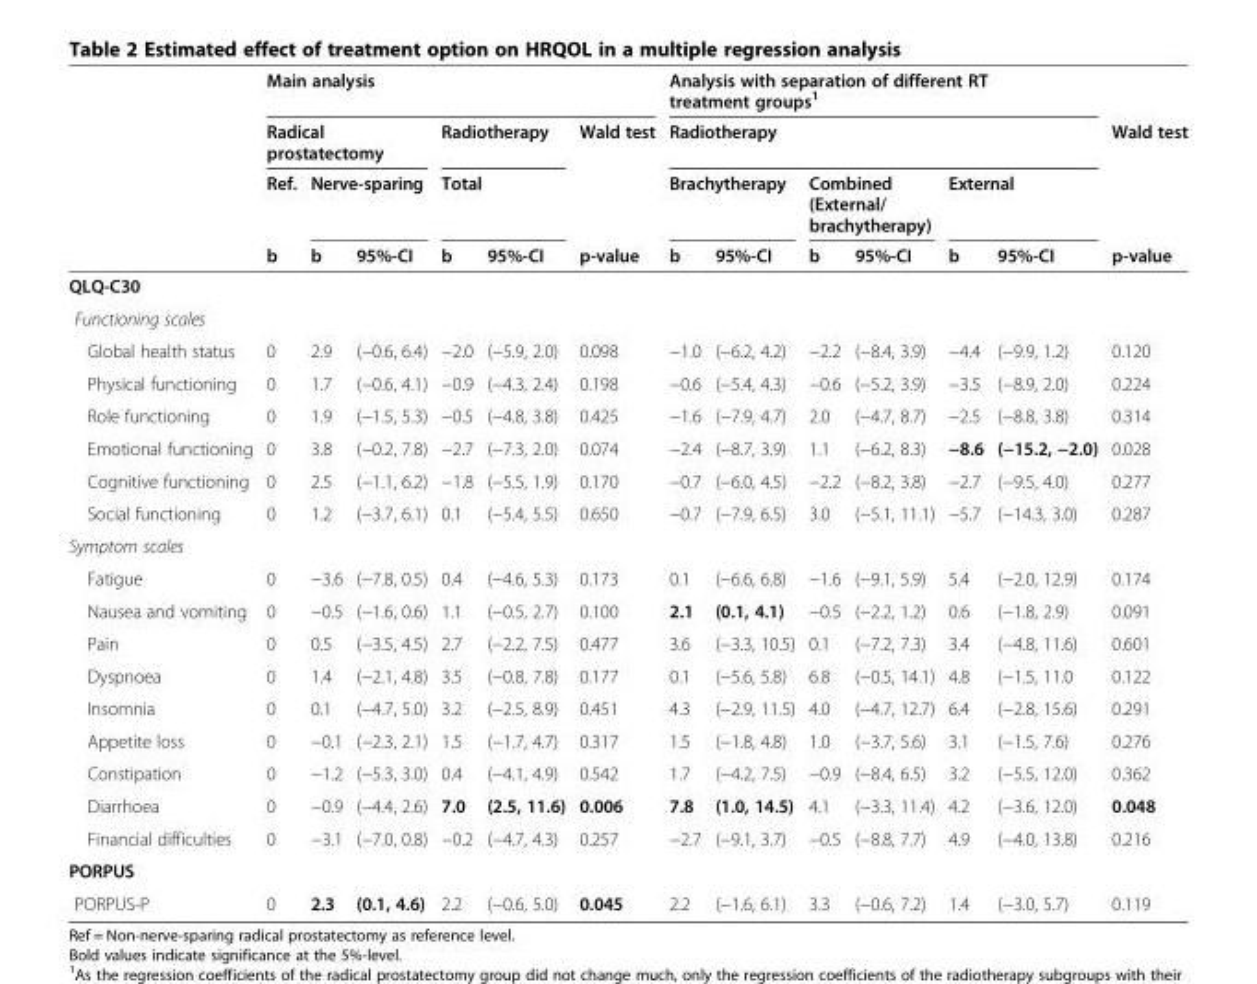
<table><thead><tr><td rowspan="4"></td><td colspan="6">Main analysis</td><td rowspan="2" colspan="6">Analysis with separation of different RT treatment groups<sup>1</sup> Radiotherapy</td><td rowspan="4">Wald test p-value</td></tr><tr><td colspan="3">Radical prostatectomy</td><td rowspan="2" colspan="2">Radiotherapy Total</td><td rowspan="3">Wald test p-value</td></tr><tr><td rowspan="2">Ref. b</td><td colspan="2">Nerve-sparing</td><td colspan="2">Brachytherapy</td><td colspan="2">Combined (External/ brachytherapy)</td><td colspan="2">External</td></tr><tr><td>b</td><td>95%-CI</td><td>b</td><td>95%-CI</td><td>b</td><td>95%-CI</td><td>b</td><td>95%-CI</td><td>b</td><td>95%-CI</td></tr></thead><tbody><tr><td colspan="14">QLQ-C30</td></tr><tr><td colspan="14">Functioning scales</td></tr><tr><td>Global health status</td><td>0</td><td>2.9</td><td>(−0.6, 6.4)</td><td>−2.0</td><td>(−5.9, 2.0)</td><td>0.098</td><td>−1.0</td><td>(−6.2, 4.2)</td><td>−2.2</td><td>(−8.4, 3.9)</td><td>−4.4</td><td>(−9.9, 1.2)</td><td>0.120</td></tr><tr><td>Physical functioning</td><td>0</td><td>1.7</td><td>(−0.6, 4.1)</td><td>−0.9</td><td>(−4.3, 2.4)</td><td>0.198</td><td>−0.6</td><td>(−5.4, 4.3)</td><td>−0.6</td><td>(−5.2, 3.9)</td><td>−3.5</td><td>(−8.9, 2.0)</td><td>0.224</td></tr><tr><td>Role functioning</td><td>0</td><td>1.9</td><td>(−1.5, 5.3)</td><td>−0.5</td><td>(−4.8, 3.8)</td><td>0.425</td><td>−1.6</td><td>(−7.9, 4.7)</td><td>2.0</td><td>(−4.7, 8.7)</td><td>−2.5</td><td>(−8.8, 3.8)</td><td>0.314</td></tr><tr><td>Emotional functioning</td><td>0</td><td>3.8</td><td>(−0.2, 7.8)</td><td>−2.7</td><td>(−7.3, 2.0)</td><td>0.074</td><td>−2.4</td><td>(−8.7, 3.9)</td><td>1.1</td><td>(−6.2, 8.3)</td><td>−8.6</td><td>(−15.2, −2.0)</td><td>0.028</td></tr><tr><td>Cognitive functioning</td><td>0</td><td>2.5</td><td>(−1.1, 6.2)</td><td>−1.8</td><td>(−5.5, 1.9)</td><td>0.170</td><td>−0.7</td><td>(−6.0, 4.5)</td><td>−2.2</td><td>(−8.2, 3.8)</td><td>−2.7</td><td>(−9.5, 4.0)</td><td>0.277</td></tr><tr><td>Social functioning</td><td>0</td><td>1.2</td><td>(−3.7, 6.1)</td><td>0.1</td><td>(−5.4, 5.5)</td><td>0.650</td><td>−0.7</td><td>(−7.9, 6.5)</td><td>3.0</td><td>(−5.1, 11.1)</td><td>−5.7</td><td>(−14.3, 3.0)</td><td>0.287</td></tr><tr><td colspan="14">Symptom scales</td></tr><tr><td>Fatigue</td><td>0</td><td>−3.6</td><td>(−7.8, 0.5)</td><td>0.4</td><td>(−4.6, 5.3)</td><td>0.173</td><td>0.1</td><td>(−6.6, 6.8)</td><td>−1.6</td><td>(−9.1, 5.9)</td><td>5.4</td><td>(−2.0, 12.9)</td><td>0.174</td></tr><tr><td>Nausea and vomiting</td><td>0</td><td>−0.5</td><td>(−1.6, 0.6)</td><td>1.1</td><td>(−0.5, 2.7)</td><td>0.100</td><td>2.1</td><td>(0.1, 4.1)</td><td>−0.5</td><td>(−2.2, 1.2)</td><td>0.6</td><td>(−1.8, 2.9)</td><td>0.091</td></tr><tr><td>Pain</td><td>0</td><td>0.5</td><td>(−3.5, 4.5)</td><td>2.7</td><td>(−2.2, 7.5)</td><td>0.477</td><td>3.6</td><td>(−3.3, 10.5)</td><td>0.1</td><td>(−7.2, 7.3)</td><td>3.4</td><td>(−4.8, 11.6)</td><td>0.601</td></tr><tr><td>Dyspnoea</td><td>0</td><td>1.4</td><td>(−2.1, 4.8)</td><td>3.5</td><td>(−0.8, 7.8)</td><td>0.177</td><td>0.1</td><td>(−5.6, 5.8)</td><td>6.8</td><td>(−0.5, 14.1)</td><td>4.8</td><td>(−1.5, 11.0</td><td>0.122</td></tr><tr><td>Insomnia</td><td>0</td><td>0.1</td><td>(−4.7, 5.0)</td><td>3.2</td><td>(−2.5, 8.9)</td><td>0.451</td><td>4.3</td><td>(−2.9, 11.5)</td><td>4.0</td><td>(−4.7, 12.7)</td><td>6.4</td><td>(−2.8, 15.6)</td><td>0.291</td></tr><tr><td>Appetite loss</td><td>0</td><td>−0.1</td><td>(−2.3, 2.1)</td><td>1.5</td><td>(−1.7, 4.7)</td><td>0.317</td><td>1.5</td><td>(−1.8, 4.8)</td><td>1.0</td><td>(−3.7, 5.6)</td><td>3.1</td><td>(−1.5, 7.6)</td><td>0.276</td></tr><tr><td>Constipation</td><td>0</td><td>−1.2</td><td>(−5.3, 3.0)</td><td>0.4</td><td>(−4.1, 4.9)</td><td>0.542</td><td>1.7</td><td>(−4.2, 7.5)</td><td>−0.9</td><td>(−8.4, 6.5)</td><td>3.2</td><td>(−5.5, 12.0)</td><td>0.362</td></tr><tr><td>Diarrhoea</td><td>0</td><td>−0.9</td><td>(−4.4, 2.6)</td><td>7.0</td><td>(2.5, 11.6)</td><td>0.006</td><td>7.8</td><td>(1.0, 14.5)</td><td>4.1</td><td>(−3.3, 11.4)</td><td>4.2</td><td>(−3.6, 12.0)</td><td>0.048</td></tr><tr><td>Financial difficulties</td><td>0</td><td>−3.1</td><td>(−7.0, 0.8)</td><td>−0.2</td><td>(−4.7, 4.3)</td><td>0.257</td><td>−2.7</td><td>(−9.1, 3.7)</td><td>−0.5</td><td>(−8.8, 7.7)</td><td>4.9</td><td>(−4.0, 13.8)</td><td>0.216</td></tr><tr><td colspan="14">PORPUS</td></tr><tr><td>PORPUS-P</td><td>0</td><td>2.3</td><td>(0.1, 4.6)</td><td>2.2</td><td>(−0.6, 5.0)</td><td>0.045</td><td>2.2</td><td>(−1.6, 6.1)</td><td>3.3</td><td>(−0.6, 7.2)</td><td>1.4</td><td>(−3.0, 5.7)</td><td>0.119</td></tr></tbody></table>